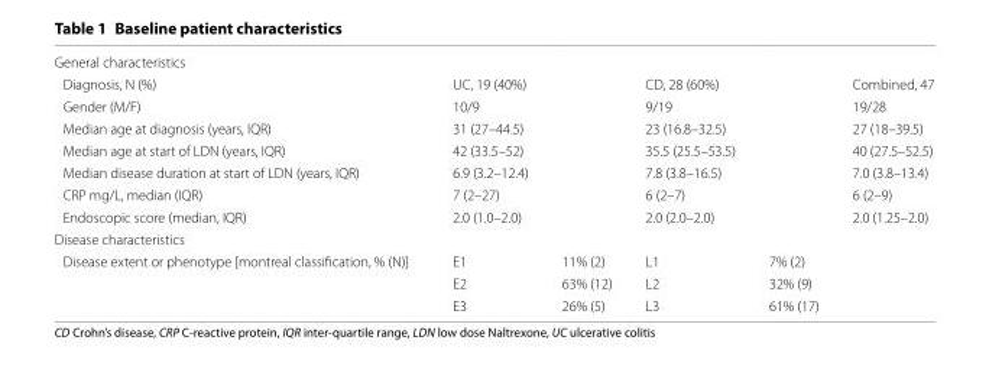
<table><tbody><tr><td colspan="6">General characteristics</td></tr><tr><td>Diagnosis, N (%)</td><td colspan="2">UC, 19 (40%)</td><td colspan="2">CD, 28 (60%)</td><td>Combined, 47</td></tr><tr><td>Gender (M/F)</td><td colspan="2">10/9</td><td colspan="2">9/19</td><td>19/28</td></tr><tr><td>Median age at diagnosis (years, IQR)</td><td colspan="2">31 (27–44.5)</td><td colspan="2">23 (16.8–32.5)</td><td>27 (18–39.5)</td></tr><tr><td>Median age at start of LDN (years, IQR)</td><td colspan="2">42 (33.5–52)</td><td colspan="2">35.5 (25.5–53.5)</td><td>40 (27.5–52.5)</td></tr><tr><td>Median disease duration at start of LDN (years, IQR)</td><td colspan="2">6.9 (3.2–12.4)</td><td colspan="2">7.8 (3.8–16.5)</td><td>7.0 (3.8–13.4)</td></tr><tr><td>CRP mg/L, median (IQR)</td><td colspan="2">7 (2–27)</td><td colspan="2">6 (2–7)</td><td>6 (2–9)</td></tr><tr><td>Endoscopic score (median, IQR)</td><td colspan="2">2.0 (1.0–2.0)</td><td colspan="2">2.0 (2.0–2.0)</td><td>2.0 (1.25–2.0)</td></tr><tr><td colspan="6">Disease characteristics</td></tr><tr><td rowspan="3">Disease extent or phenotype [montreal classification, % (N)]</td><td>E1</td><td>11% (2)</td><td>L1</td><td>7% (2)</td><td rowspan="3"></td></tr><tr><td>E2</td><td>63% (12)</td><td>L2</td><td>32% (9)</td></tr><tr><td>E3</td><td>26% (5)</td><td>L3</td><td>61% (17)</td></tr></tbody></table>